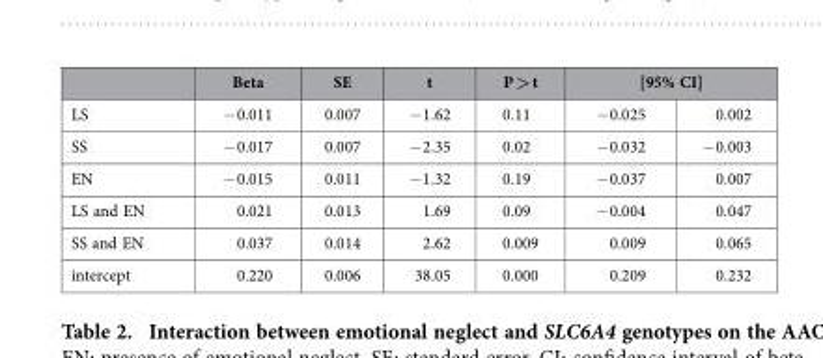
<table><thead><tr><td rowspan="2">LS</td><td rowspan="2">Beta − 0.011</td><td rowspan="2">SE 0.007</td><td rowspan="2">t − 1.62</td><td rowspan="2">P &gt; t 0.11</td><td colspan="2">[95% CI]</td></tr><tr><td>− 0.025</td><td>0.002</td></tr></thead><tbody><tr><td>SS</td><td>− 0.017</td><td>0.007</td><td>− 2.35</td><td>0.02</td><td>− 0.032</td><td>− 0.003</td></tr><tr><td>EN</td><td>− 0.015</td><td>0.011</td><td>− 1.32</td><td>0.19</td><td>− 0.037</td><td>0.007</td></tr><tr><td>LS and EN</td><td>0.021</td><td>0.013</td><td>1.69</td><td>0.09</td><td>− 0.004</td><td>0.047</td></tr><tr><td>SS and EN</td><td>0.037</td><td>0.014</td><td>2.62</td><td>0.009</td><td>0.009</td><td>0.065</td></tr><tr><td>intercept</td><td>0.220</td><td>0.006</td><td>38.05</td><td>0.000</td><td>0.209</td><td>0.232</td></tr></tbody></table>